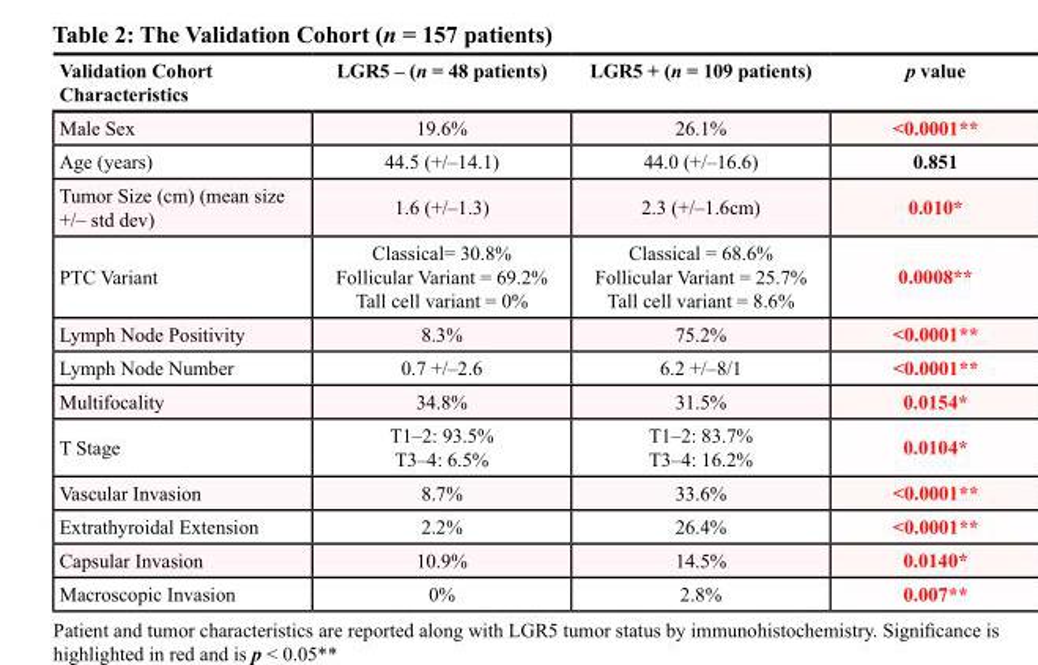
<table><thead><tr><td>Validation Cohort Characteristics</td><td>LGR5 – (n = 48 patients)</td><td>LGR5 + (n = 109 patients)</td><td>p value</td></tr></thead><tbody><tr><td>Male Sex</td><td>19.6%</td><td>26.1%</td><td>&lt;0.0001**</td></tr><tr><td>Age (years)</td><td>44.5 (+/–14.1)</td><td>44.0 (+/–16.6)</td><td>0.851</td></tr><tr><td>Tumor Size (cm) (mean size +/– std dev)</td><td>1.6 (+/–1.3)</td><td>2.3 (+/–1.6cm)</td><td>0.010*</td></tr><tr><td>PTC Variant</td><td>Classical= 30.8% Follicular Variant = 69.2% Tall cell variant = 0%</td><td>Classical = 68.6% Follicular Variant = 25.7% Tall cell variant = 8.6%</td><td>0.0008**</td></tr><tr><td>Lymph Node Positivity</td><td>8.3%</td><td>75.2%</td><td>&lt;0.0001**</td></tr><tr><td>Lymph Node Number</td><td>0.7 +/–2.6</td><td>6.2 +/–8/1</td><td>&lt;0.0001**</td></tr><tr><td>Multifocality</td><td>34.8%</td><td>31.5%</td><td>0.0154*</td></tr><tr><td>T Stage</td><td>T1–2: 93.5% T3–4: 6.5%</td><td>T1–2: 83.7% T3–4: 16.2%</td><td>0.0104*</td></tr><tr><td>Vascular Invasion</td><td>8.7%</td><td>33.6%</td><td>&lt;0.0001**</td></tr><tr><td>Extrathyroidal Extension</td><td>2.2%</td><td>26.4%</td><td>&lt;0.0001**</td></tr><tr><td>Capsular Invasion</td><td>10.9%</td><td>14.5%</td><td>0.0140*</td></tr><tr><td>Macroscopic Invasion</td><td>0%</td><td>2.8%</td><td>0.007**</td></tr></tbody></table>